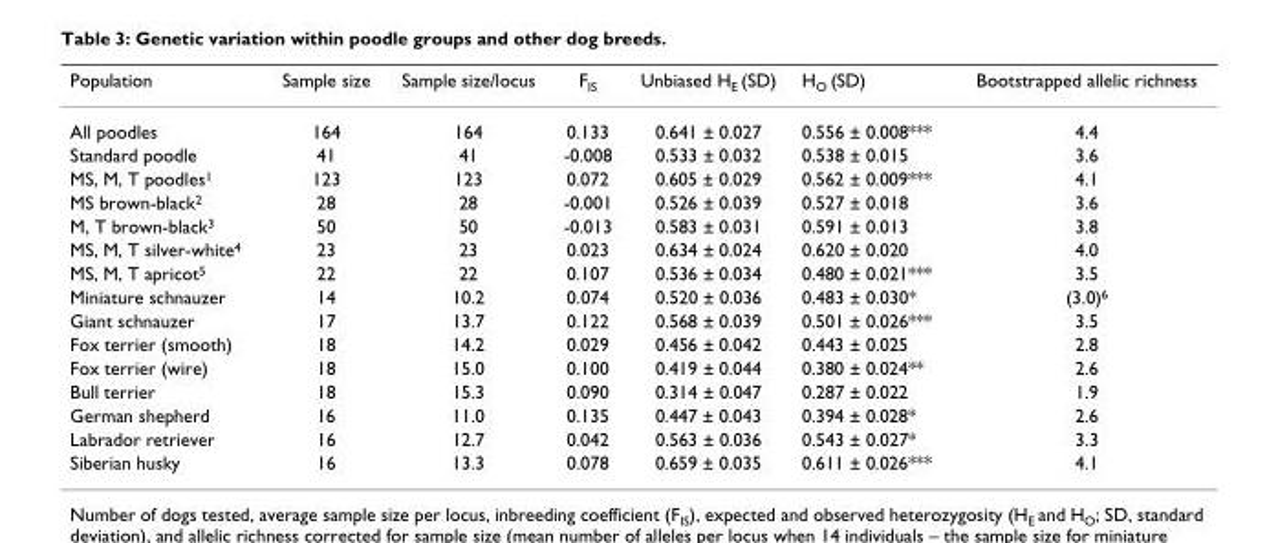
<table><thead><tr><td>Population</td><td>Sample size</td><td>Sample size/locus</td><td>F<sub>IS</sub></td><td>Unbiased H<sub>E</sub> (SD)</td><td>H<sub>O</sub> (SD)</td><td>Bootstrapped allelic richness</td></tr></thead><tbody><tr><td>All poodles</td><td>164</td><td>164</td><td>0.133</td><td>0.641 ± 0.027</td><td>0.556 ± 0.008***</td><td>4.4</td></tr><tr><td>Standard poodle</td><td>41</td><td>41</td><td>-0.008</td><td>0.533 ± 0.032</td><td>0.538 ± 0.015</td><td>3.6</td></tr><tr><td>MS, M, T poodles<sup>1</sup></td><td>123</td><td>123</td><td>0.072</td><td>0.605 ± 0.029</td><td>0.562 ± 0.009***</td><td>4.1</td></tr><tr><td>MS brown-black<sup>2</sup></td><td>28</td><td>28</td><td>-0.001</td><td>0.526 ± 0.039</td><td>0.527 ± 0.018</td><td>3.6</td></tr><tr><td>M, T brown-black<sup>3</sup></td><td>50</td><td>50</td><td>-0.013</td><td>0.583 ± 0.031</td><td>0.591 ± 0.013</td><td>3.8</td></tr><tr><td>MS, M, T silver-white<sup>4</sup></td><td>23</td><td>23</td><td>0.023</td><td>0.634 ± 0.024</td><td>0.620 ± 0.020</td><td>4.0</td></tr><tr><td>MS, M, T apricot<sup>5</sup></td><td>22</td><td>22</td><td>0.107</td><td>0.536 ± 0.034</td><td>0.480 ± 0.021***</td><td>3.5</td></tr><tr><td>Miniature schnauzer</td><td>14</td><td>10.2</td><td>0.074</td><td>0.520 ± 0.036</td><td>0.483 ± 0.030*</td><td>(3.0)<sup>6</sup></td></tr><tr><td>Giant schnauzer</td><td>17</td><td>13.7</td><td>0.122</td><td>0.568 ± 0.039</td><td>0.501 ± 0.026***</td><td>3.5</td></tr><tr><td>Fox terrier (smooth)</td><td>18</td><td>14.2</td><td>0.029</td><td>0.456 ± 0.042</td><td>0.443 ± 0.025</td><td>2.8</td></tr><tr><td>Fox terrier (wire)</td><td>18</td><td>15.0</td><td>0.100</td><td>0.419 ± 0.044</td><td>0.380 ± 0.024**</td><td>2.6</td></tr><tr><td>Bull terrier</td><td>18</td><td>15.3</td><td>0.090</td><td>0.314 ± 0.047</td><td>0.287 ± 0.022</td><td>1.9</td></tr><tr><td>German shepherd</td><td>16</td><td>11.0</td><td>0.135</td><td>0.447 ± 0.043</td><td>0.394 ± 0.028*</td><td>2.6</td></tr><tr><td>Labrador retriever</td><td>16</td><td>12.7</td><td>0.042</td><td>0.563 ± 0.036</td><td>0.543 ± 0.027*</td><td>3.3</td></tr><tr><td>Siberian husky</td><td>16</td><td>13.3</td><td>0.078</td><td>0.659 ± 0.035</td><td>0.611 ± 0.026***</td><td>4.1</td></tr></tbody></table>